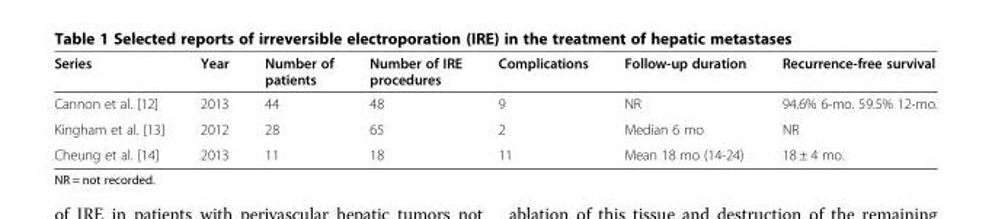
<table><thead><tr><td>Series</td><td>Year</td><td>Number of patients</td><td>Number of IRE procedures</td><td>Complications</td><td>Follow-up duration</td><td>Recurrence-free survival</td></tr></thead><tbody><tr><td>Cannon et al. [12]</td><td>2013</td><td>44</td><td>48</td><td>9</td><td>NR</td><td>94.6% 6-mo. 59.5% 12-mo.</td></tr><tr><td>Kingham et al. [13]</td><td>2012</td><td>28</td><td>65</td><td>2</td><td>Median 6 mo</td><td>NR</td></tr><tr><td>Cheung et al. [14]</td><td>2013</td><td>11</td><td>18</td><td>11</td><td>Mean 18 mo (14-24)</td><td>18 ± 4 mo.</td></tr></tbody></table>